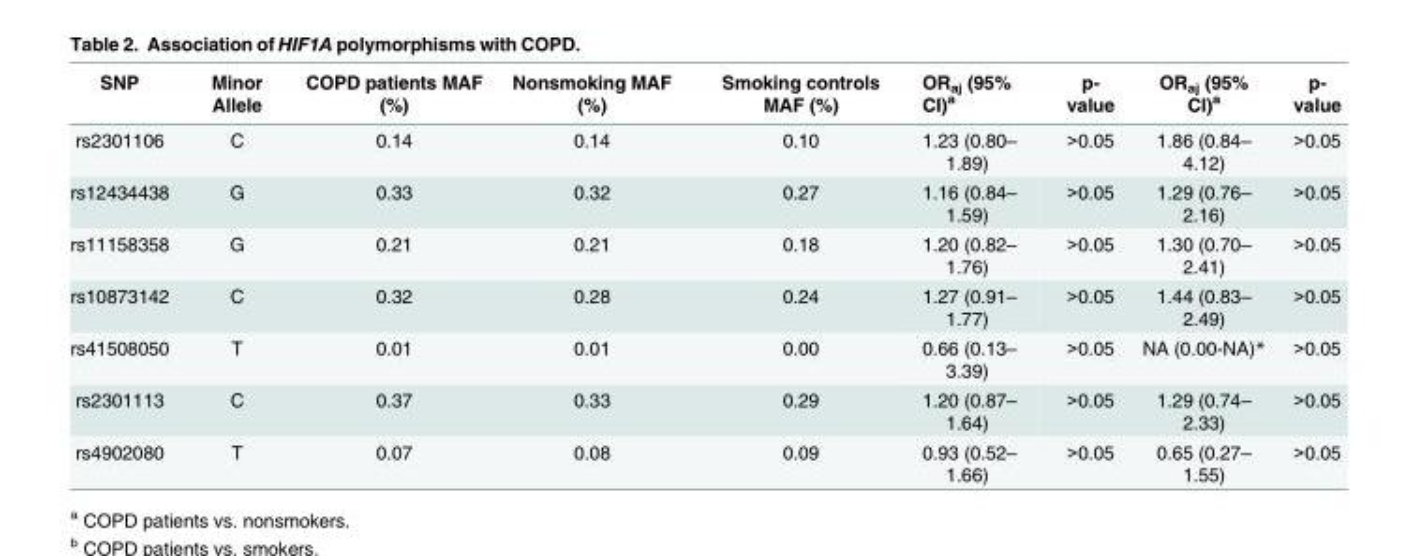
<table><thead><tr><td>SNP</td><td>Minor Allele</td><td>COPD patients MAF (%)</td><td>Nonsmoking MAF (%)</td><td>Smoking controls MAF (%)</td><td>OR<sub>aj</sub> (95% CI)<sup>a</sup></td><td>p- value</td><td>OR<sub>aj</sub> (95% CI)<sup>a</sup></td><td>p- value</td></tr></thead><tbody><tr><td>rs2301106</td><td>C</td><td>0.14</td><td>0.14</td><td>0.10</td><td>1.23 (0.80– 1.89)</td><td>&gt;0.05</td><td>1.86 (0.84– 4.12)</td><td>&gt;0.05</td></tr><tr><td>rs12434438</td><td>G</td><td>0.33</td><td>0.32</td><td>0.27</td><td>1.16 (0.84– 1.59)</td><td>&gt;0.05</td><td>1.29 (0.76– 2.16)</td><td>&gt;0.05</td></tr><tr><td>rs11158358</td><td>G</td><td>0.21</td><td>0.21</td><td>0.18</td><td>1.20 (0.82– 1.76)</td><td>&gt;0.05</td><td>1.30 (0.70– 2.41)</td><td>&gt;0.05</td></tr><tr><td>rs10873142</td><td>C</td><td>0.32</td><td>0.28</td><td>0.24</td><td>1.27 (0.91– 1.77)</td><td>&gt;0.05</td><td>1.44 (0.83– 2.49)</td><td>&gt;0.05</td></tr><tr><td>rs41508050</td><td>T</td><td>0.01</td><td>0.01</td><td>0.00</td><td>0.66 (0.13– 3.39)</td><td>&gt;0.05</td><td>NA (0.00-NA)*</td><td>&gt;0.05</td></tr><tr><td>rs2301113</td><td>C</td><td>0.37</td><td>0.33</td><td>0.29</td><td>1.20 (0.87– 1.64)</td><td>&gt;0.05</td><td>1.29 (0.74– 2.33)</td><td>&gt;0.05</td></tr><tr><td>rs4902080</td><td>T</td><td>0.07</td><td>0.08</td><td>0.09</td><td>0.93 (0.52– 1.66)</td><td>&gt;0.05</td><td>0.65 (0.27– 1.55)</td><td>&gt;0.05</td></tr></tbody></table>